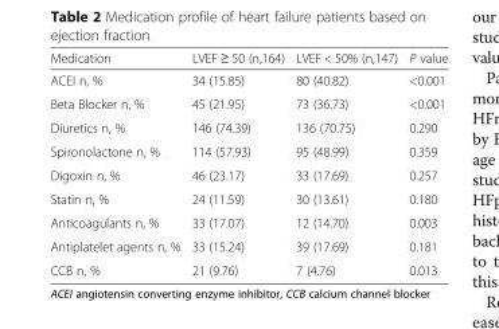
<table><thead><tr><td>Medication</td><td>LVEF ≥ 50 (n,164)</td><td>LVEF &lt; 50% (n,147)</td><td>P value</td></tr></thead><tbody><tr><td>ACEI n, %</td><td>34 (15.85)</td><td>80 (40.82)</td><td>&lt;0.001</td></tr><tr><td>Beta Blocker n, %</td><td>45 (21.95)</td><td>73 (36.73)</td><td>&lt;0.001</td></tr><tr><td>Diuretics n, %</td><td>146 (74.39)</td><td>136 (70.75)</td><td>0.290</td></tr><tr><td>Spironolactone n, %</td><td>114 (57.93)</td><td>95 (48.99)</td><td>0.359</td></tr><tr><td>Digoxin n, %</td><td>46 (23.17)</td><td>33 (17.69)</td><td>0.257</td></tr><tr><td>Statin n, %</td><td>24 (11.59)</td><td>30 (13.61)</td><td>0.180</td></tr><tr><td>Anticoagulants n, %</td><td>33 (17.07)</td><td>12 (14.70)</td><td>0.003</td></tr><tr><td>Antiplatelet agents n, %</td><td>33 (15.24)</td><td>39 (17.69)</td><td>0.181</td></tr><tr><td>CCB n, %</td><td>21 (9.76)</td><td>7 (4.76)</td><td>0.013</td></tr></tbody></table>